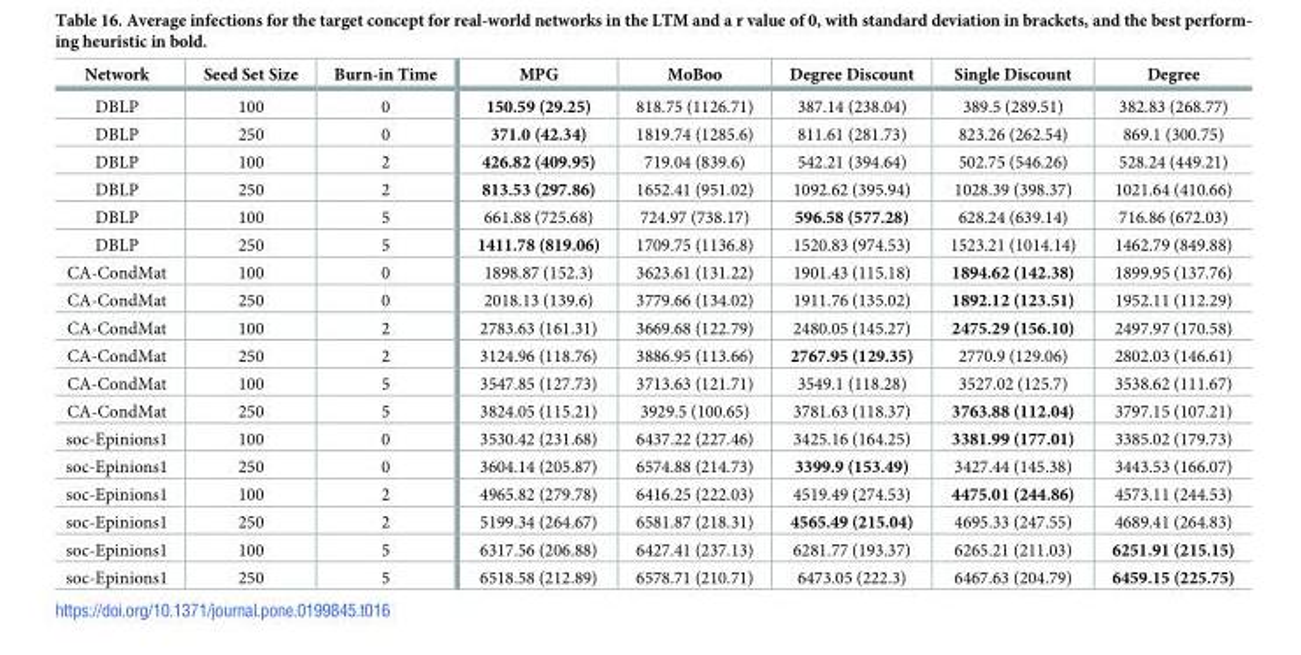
<table><thead><tr><td>Network</td><td>Seed Set Size</td><td>Burn-in Time</td><td>MPG</td><td>MoBoo</td><td>Degree Discount</td><td>Single Discount</td><td>Degree</td></tr></thead><tbody><tr><td>DBLP</td><td>100</td><td>0</td><td>150.59 (29.25)</td><td>818.75 (1126.71)</td><td>387.14 (238.04)</td><td>389.5 (289.51)</td><td>382.83 (268.77)</td></tr><tr><td>DBLP</td><td>250</td><td>0</td><td>371.0 (42.34)</td><td>1819.74 (1285.6)</td><td>811.61 (281.73)</td><td>823.26 (262.54)</td><td>869.1 (300.75)</td></tr><tr><td>DBLP</td><td>100</td><td>2</td><td>426.82 (409.95)</td><td>719.04 (839.6)</td><td>542.21 (394.64)</td><td>502.75 (546.26)</td><td>528.24 (449.21)</td></tr><tr><td>DBLP</td><td>250</td><td>2</td><td>813.53 (297.86)</td><td>1652.41 (951.02)</td><td>1092.62 (395.94)</td><td>1028.39 (398.37)</td><td>1021.64 (410.66)</td></tr><tr><td>DBLP</td><td>100</td><td>5</td><td>661.88 (725.68)</td><td>724.97 (738.17)</td><td>596.58 (577.28)</td><td>628.24 (639.14)</td><td>716.86 (672.03)</td></tr><tr><td>DBLP</td><td>250</td><td>5</td><td>1411.78 (819.06)</td><td>1709.75 (1136.8)</td><td>1520.83 (974.53)</td><td>1523.21 (1014.14)</td><td>1462.79 (849.88)</td></tr><tr><td>CA-CondMat</td><td>100</td><td>0</td><td>1898.87 (152.3)</td><td>3623.61 (131.22)</td><td>1901.43 (115.18)</td><td>1894.62 (142.38)</td><td>1899.95 (137.76)</td></tr><tr><td>CA-CondMat</td><td>250</td><td>0</td><td>2018.13 (139.6)</td><td>3779.66 (134.02)</td><td>1911.76 (135.02)</td><td>1892.12 (123.51)</td><td>1952.11 (112.29)</td></tr><tr><td>CA-CondMat</td><td>100</td><td>2</td><td>2783.63 (161.31)</td><td>3669.68 (122.79)</td><td>2480.05 (145.27)</td><td>2475.29 (156.10)</td><td>2497.97 (170.58)</td></tr><tr><td>CA-CondMat</td><td>250</td><td>2</td><td>3124.96 (118.76)</td><td>3886.95 (113.66)</td><td>2767.95 (129.35)</td><td>2770.9 (129.06)</td><td>2802.03 (146.61)</td></tr><tr><td>CA-CondMat</td><td>100</td><td>5</td><td>3547.85 (127.73)</td><td>3713.63 (121.71)</td><td>3549.1 (118.28)</td><td>3527.02 (125.7)</td><td>3538.62 (111.67)</td></tr><tr><td>CA-CondMat</td><td>250</td><td>5</td><td>3824.05 (115.21)</td><td>3929.5 (100.65)</td><td>3781.63 (118.37)</td><td>3763.88 (112.04)</td><td>3797.15 (107.21)</td></tr><tr><td>soc-Epinions1</td><td>100</td><td>0</td><td>3530.42 (231.68)</td><td>6437.22 (227.46)</td><td>3425.16 (164.25)</td><td>3381.99 (177.01)</td><td>3385.02 (179.73)</td></tr><tr><td>soc-Epinions1</td><td>250</td><td>0</td><td>3604.14 (205.87)</td><td>6574.88 (214.73)</td><td>3399.9 (153.49)</td><td>3427.44 (145.38)</td><td>3443.53 (166.07)</td></tr><tr><td>soc-Epinions1</td><td>100</td><td>2</td><td>4965.82 (279.78)</td><td>6416.25 (222.03)</td><td>4519.49 (274.53)</td><td>4475.01 (244.86)</td><td>4573.11 (244.53)</td></tr><tr><td>soc-Epinions1</td><td>250</td><td>2</td><td>5199.34 (264.67)</td><td>6581.87 (218.31)</td><td>4565.49 (215.04)</td><td>4695.33 (247.55)</td><td>4689.41 (264.83)</td></tr><tr><td>soc-Epinions1</td><td>100</td><td>5</td><td>6317.56 (206.88)</td><td>6427.41 (237.13)</td><td>6281.77 (193.37)</td><td>6265.21 (211.03)</td><td>6251.91 (215.15)</td></tr><tr><td>soc-Epinions1</td><td>250</td><td>5</td><td>6518.58 (212.89)</td><td>6578.71 (210.71)</td><td>6473.05 (222.3)</td><td>6467.63 (204.79)</td><td>6459.15 (225.75)</td></tr></tbody></table>